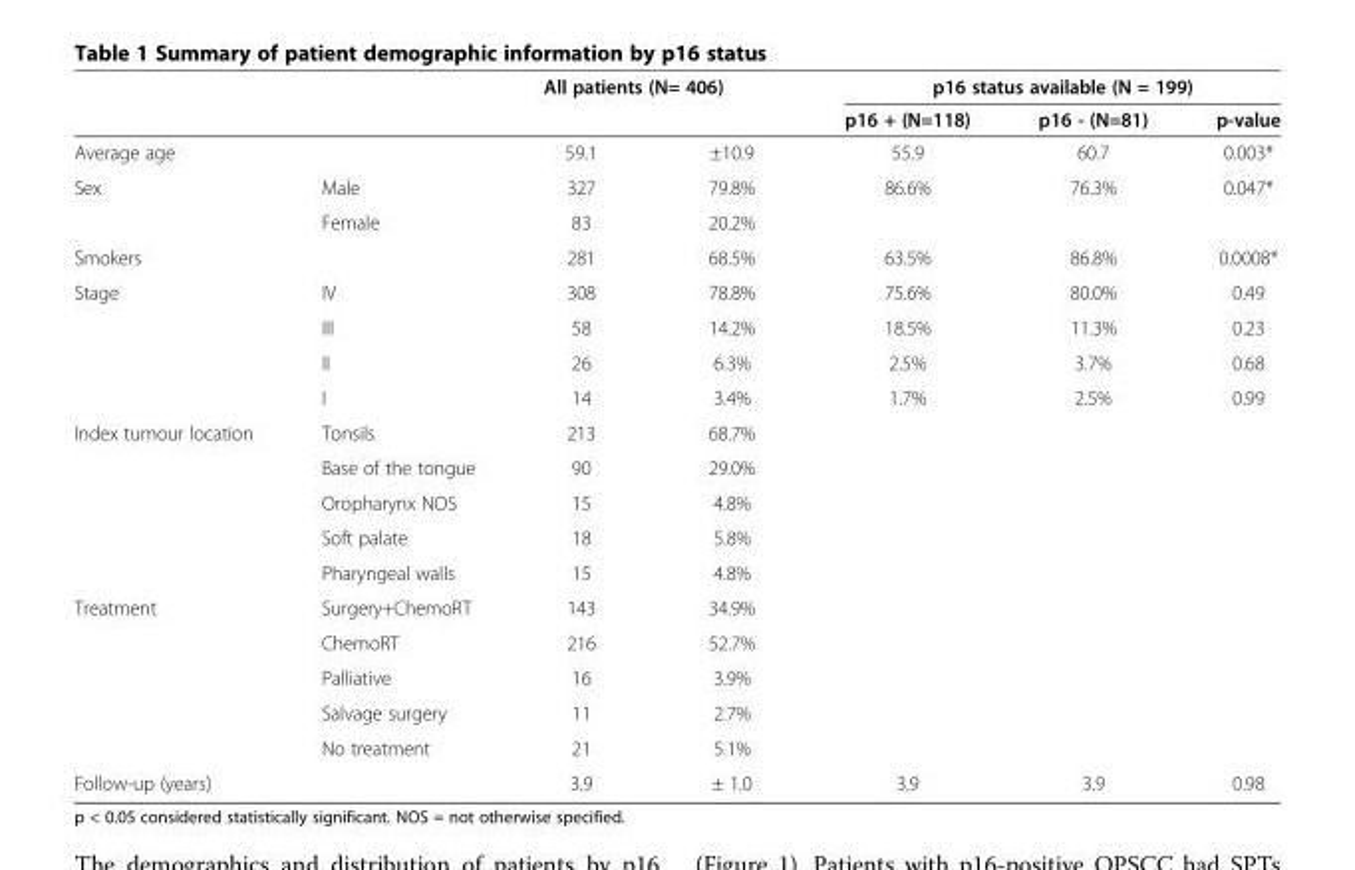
<table><thead><tr><td rowspan="2"></td><td rowspan="2"></td><td colspan="2">All patients (N= 406)</td><td colspan="3">p16 status available (N = 199)</td></tr><tr><td></td><td></td><td>p16 + (N=118)</td><td>p16 - (N=81)</td><td>p-value</td></tr></thead><tbody><tr><td>Average age</td><td></td><td>59.1</td><td>±10.9</td><td>55.9</td><td>60.7</td><td>0.003*</td></tr><tr><td rowspan="2">Sex</td><td>Male</td><td>327</td><td>79.8%</td><td>86.6%</td><td>76.3%</td><td>0.047*</td></tr><tr><td>Female</td><td>83</td><td>20.2%</td><td></td><td></td><td></td></tr><tr><td>Smokers</td><td></td><td>281</td><td>68.5%</td><td>63.5%</td><td>86.8%</td><td>0.0008*</td></tr><tr><td rowspan="4">Stage</td><td>IV</td><td>308</td><td>78.8%</td><td>75.6%</td><td>80.0%</td><td>0.49</td></tr><tr><td>III</td><td>58</td><td>14.2%</td><td>18.5%</td><td>11.3%</td><td>0.23</td></tr><tr><td>II</td><td>26</td><td>6.3%</td><td>2.5%</td><td>3.7%</td><td>0.68</td></tr><tr><td>I</td><td>14</td><td>3.4%</td><td>1.7%</td><td>2.5%</td><td>0.99</td></tr><tr><td rowspan="5">Index tumour location</td><td>Tonsils</td><td>213</td><td>68.7%</td><td></td><td></td><td></td></tr><tr><td>Base of the tongue</td><td>90</td><td>29.0%</td><td></td><td></td><td></td></tr><tr><td>Oropharynx NOS</td><td>15</td><td>4.8%</td><td></td><td></td><td></td></tr><tr><td>Soft palate</td><td>18</td><td>5.8%</td><td></td><td></td><td></td></tr><tr><td>Pharyngeal walls</td><td>15</td><td>4.8%</td><td></td><td></td><td></td></tr><tr><td rowspan="5">Treatment</td><td>Surgery+ChemoRT</td><td>143</td><td>34.9%</td><td></td><td></td><td></td></tr><tr><td>ChemoRT</td><td>216</td><td>52.7%</td><td></td><td></td><td></td></tr><tr><td>Palliative</td><td>16</td><td>3.9%</td><td></td><td></td><td></td></tr><tr><td>Salvage surgery</td><td>11</td><td>2.7%</td><td></td><td></td><td></td></tr><tr><td>No treatment</td><td>21</td><td>5.1%</td><td></td><td></td><td></td></tr><tr><td>Follow-up (years)</td><td></td><td>3.9</td><td>± 1.0</td><td>3.9</td><td>3.9</td><td>0.98</td></tr></tbody></table>